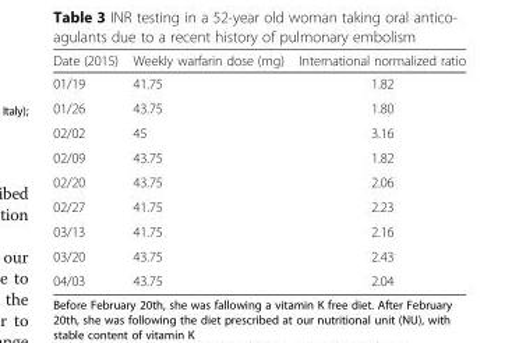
<table><thead><tr><td>Date (2015)</td><td>Weekly warfarin dose (mg)</td><td>International normalized ratio</td></tr></thead><tbody><tr><td>01/19</td><td>41.75</td><td>1.82</td></tr><tr><td>01/26</td><td>43.75</td><td>1.80</td></tr><tr><td>02/02</td><td>45</td><td>3.16</td></tr><tr><td>02/09</td><td>43.75</td><td>1.82</td></tr><tr><td>02/20</td><td>43.75</td><td>2.06</td></tr><tr><td>02/27</td><td>41.75</td><td>2.23</td></tr><tr><td>03/13</td><td>41.75</td><td>2.16</td></tr><tr><td>03/20</td><td>43.75</td><td>2.43</td></tr><tr><td>04/03</td><td>43.75</td><td>2.04</td></tr></tbody></table>